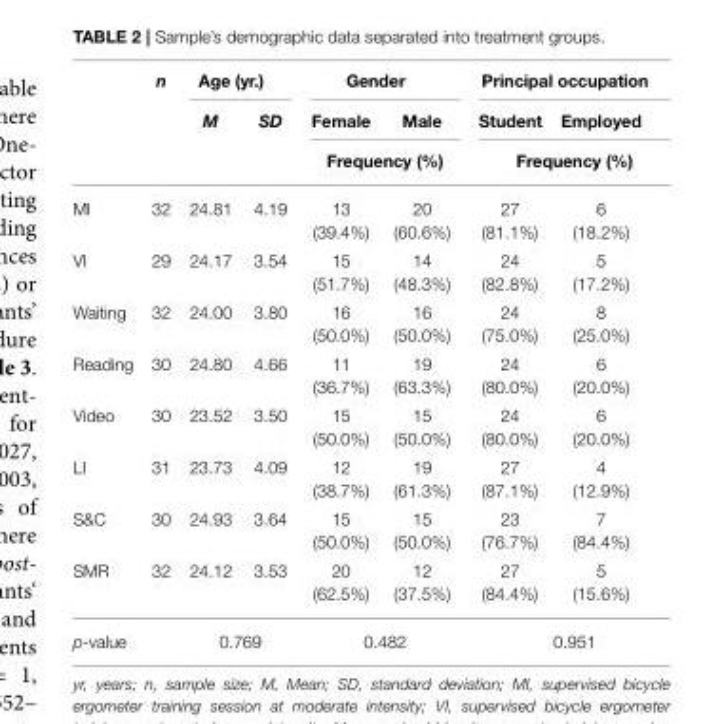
<table><thead><tr><td rowspan="3"></td><td rowspan="3">n</td><td colspan="2">Age (yr.)</td><td colspan="2">Gender</td><td colspan="2">Principal occupation</td></tr><tr><td rowspan="2">M</td><td rowspan="2">SD</td><td>Female</td><td>Male</td><td>Student</td><td>Employed</td></tr><tr><td colspan="2">Frequency (%)</td><td colspan="2">Frequency (%)</td></tr></thead><tbody><tr><td>MI</td><td>32</td><td>24.81</td><td>4.19</td><td>13 (39.4%)</td><td>20 (60.6%)</td><td>27 (81.1%)</td><td>6 (18.2%)</td></tr><tr><td>VI</td><td>29</td><td>24.17</td><td>3.54</td><td>15 (51.7%)</td><td>14 (48.3%)</td><td>24 (82.8%)</td><td>5 (17.2%)</td></tr><tr><td>Waiting</td><td>32</td><td>24.00</td><td>3.80</td><td>16 (50.0%)</td><td>16 (50.0%)</td><td>24 (75.0%)</td><td>8 (25.0%)</td></tr><tr><td>Reading</td><td>30</td><td>24.80</td><td>4.66</td><td>11 (36.7%)</td><td>19 (63.3%)</td><td>24 (80.0%)</td><td>6 (20.0%)</td></tr><tr><td>Video</td><td>30</td><td>23.52</td><td>3.50</td><td>15 (50.0%)</td><td>15 (50.0%)</td><td>24 (80.0%)</td><td>6 (20.0%)</td></tr><tr><td>LI</td><td>31</td><td>23.73</td><td>4.09</td><td>12 (38.7%)</td><td>19 (61.3%)</td><td>27 (87.1%)</td><td>4 (12.9%)</td></tr><tr><td>S&amp;C</td><td>30</td><td>24.93</td><td>3.64</td><td>15 (50.0%)</td><td>15 (50.0%)</td><td>23 (76.7%)</td><td>7 (84.4%)</td></tr><tr><td>SMR</td><td>32</td><td>24.12</td><td>3.53</td><td>20 (62.5%)</td><td>12 (37.5%)</td><td>27 (84.4%)</td><td>5 (15.6%)</td></tr><tr><td>p-value</td><td></td><td colspan="2">0.769</td><td colspan="2">0.482</td><td colspan="2">0.951</td></tr></tbody></table>